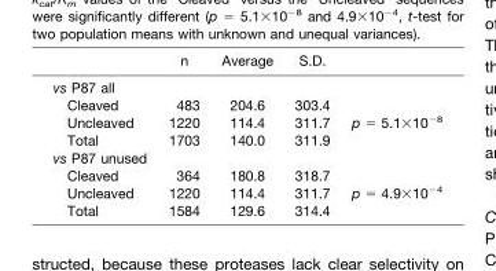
<table><thead><tr><td></td><td>n</td><td>Average</td><td>S.D.</td><td></td></tr></thead><tbody><tr><td colspan="5">vs P87 all</td></tr><tr><td>Cleaved</td><td>483</td><td>204.6</td><td>303.4</td><td></td></tr><tr><td>Uncleaved</td><td>1220</td><td>114.4</td><td>311.7</td><td>p = 5.1×10<sup>−8</sup></td></tr><tr><td>Total</td><td>1703</td><td>140.0</td><td>311.9</td><td></td></tr><tr><td colspan="5">vs P87 unused</td></tr><tr><td>Cleaved</td><td>364</td><td>180.8</td><td>318.7</td><td></td></tr><tr><td>Uncleaved</td><td>1220</td><td>114.4</td><td>311.7</td><td>p = 4.9×10<sup>−4</sup></td></tr><tr><td>Total</td><td>1584</td><td>129.6</td><td>314.4</td><td></td></tr></tbody></table>